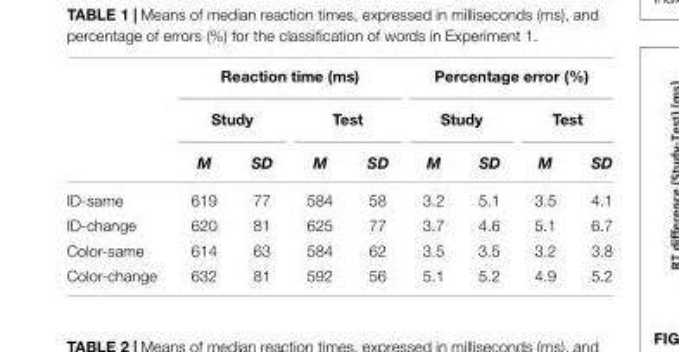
<table><thead><tr><td rowspan="3"></td><td colspan="4">Reaction time (ms)</td><td colspan="4">Percentage error (%)</td></tr><tr><td colspan="2">Study</td><td colspan="2">Test</td><td colspan="2">Study</td><td colspan="2">Test</td></tr><tr><td>M</td><td>SD</td><td>M</td><td>SD</td><td>M</td><td>SD</td><td>M</td><td>SD</td></tr></thead><tbody><tr><td>ID-same</td><td>619</td><td>77</td><td>584</td><td>58</td><td>3.2</td><td>5.1</td><td>3.5</td><td>4.1</td></tr><tr><td>ID-change</td><td>620</td><td>81</td><td>625</td><td>77</td><td>3.7</td><td>4.6</td><td>5.1</td><td>6.7</td></tr><tr><td>Color-same</td><td>614</td><td>63</td><td>584</td><td>62</td><td>3.5</td><td>3.5</td><td>3.2</td><td>3.8</td></tr><tr><td>Color-change</td><td>632</td><td>81</td><td>592</td><td>56</td><td>5.1</td><td>5.2</td><td>4.9</td><td>5.2</td></tr></tbody></table>